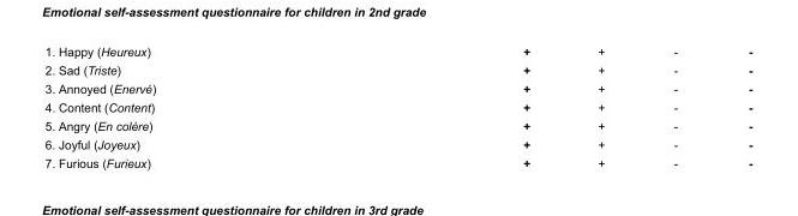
<table><tbody><tr><td>1. Happy (Heureux)</td><td>+</td><td>+</td><td>-</td><td>-</td></tr><tr><td>2. Sad (Triste)</td><td>+</td><td>+</td><td>-</td><td>-</td></tr><tr><td>3. Annoyed (Enervé)</td><td>+</td><td>+</td><td>-</td><td>-</td></tr><tr><td>4. Content (Content)</td><td>+</td><td>+</td><td>-</td><td>-</td></tr><tr><td>5. Angry (En colère)</td><td>+</td><td>+</td><td>-</td><td>-</td></tr><tr><td>6. Joyful (Joyeux)</td><td>+</td><td>+</td><td>-</td><td>-</td></tr><tr><td>7. Furious (Furieux)</td><td>+</td><td>+</td><td>-</td><td>-</td></tr></tbody></table>